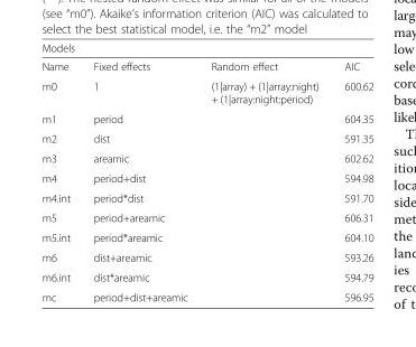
<table><thead><tr><td colspan="4">Models</td></tr><tr><td>Name</td><td>Fixed effects</td><td>Random effect</td><td>AIC</td></tr></thead><tbody><tr><td>m0</td><td>1</td><td>(1|array) + (1|array:night) + (1|array:night:period)</td><td>600.62</td></tr><tr><td>m1</td><td>period</td><td></td><td>604.35</td></tr><tr><td>m2</td><td>dist</td><td></td><td>591.35</td></tr><tr><td>m3</td><td>areamic</td><td></td><td>602.62</td></tr><tr><td>m4</td><td>period+dist</td><td></td><td>594.98</td></tr><tr><td>m4.int</td><td>period*dist</td><td></td><td>591.70</td></tr><tr><td>m5</td><td>period+areamic</td><td></td><td>606.31</td></tr><tr><td>m5.int</td><td>period*areamic</td><td></td><td>604.10</td></tr><tr><td>m6</td><td>dist+areamic</td><td></td><td>593.26</td></tr><tr><td>m6.int</td><td>dist*areamic</td><td></td><td>594.79</td></tr><tr><td>mc</td><td>period+dist+areamic</td><td></td><td>596.95</td></tr></tbody></table>